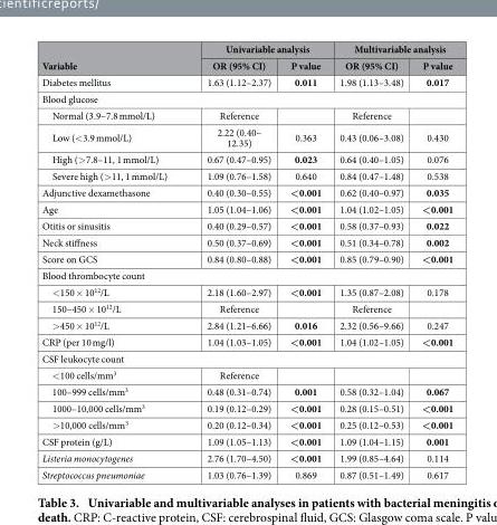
<table><thead><tr><td rowspan="2">Variable</td><td colspan="2">Univariable analysis</td><td colspan="2">Multivariable analysis</td></tr><tr><td>OR (95% CI)</td><td>P value</td><td>OR (95% CI)</td><td>P value</td></tr></thead><tbody><tr><td>Diabetes mellitus</td><td>1.63 (1.12–2.37)</td><td>0.011</td><td>1.98 (1.13–3.48)</td><td>0.017</td></tr><tr><td colspan="5">Blood glucose</td></tr><tr><td>Normal (3.9–7.8 mmol/L)</td><td>Reference</td><td></td><td>Reference</td><td></td></tr><tr><td>Low (&lt; 3.9 mmol/L)</td><td>2.22 (0.40– 12.35)</td><td>0.363</td><td>0.43 (0.06–3.08)</td><td>0.430</td></tr><tr><td>High (&gt; 7.8–11, 1 mmol/L)</td><td>0.67 (0.47–0.95)</td><td>0.023</td><td>0.64 (0.40–1.05)</td><td>0.076</td></tr><tr><td>Severe high (&gt; 11, 1 mmol/L)</td><td>1.09 (0.76–1.58)</td><td>0.640</td><td>0.84 (0.47–1.48)</td><td>0.538</td></tr><tr><td>Adjunctive dexamethasone</td><td>0.40 (0.30–0.55)</td><td>&lt;0.001</td><td>0.62 (0.40–0.97)</td><td>0.035</td></tr><tr><td>Age</td><td>1.05 (1.04–1.06)</td><td>&lt;0.001</td><td>1.04 (1.02–1.05)</td><td>&lt;0.001</td></tr><tr><td>Otitis or sinusitis</td><td>0.40 (0.29–0.57)</td><td>&lt;0.001</td><td>0.58 (0.37–0.93)</td><td>0.022</td></tr><tr><td>Neck stiffness</td><td>0.50 (0.37–0.69)</td><td>&lt;0.001</td><td>0.51 (0.34–0.78)</td><td>0.002</td></tr><tr><td>Score on GCS</td><td>0.84 (0.80–0.88)</td><td>&lt;0.001</td><td>0.85 (0.79–0.90)</td><td>&lt;0.001</td></tr><tr><td colspan="5">Blood thrombocyte count</td></tr><tr><td>&lt; 150 × 10<sup>12</sup>/L</td><td>2.18 (1.60–2.97)</td><td>&lt;0.001</td><td>1.35 (0.87–2.08)</td><td>0.178</td></tr><tr><td>150–450 × 10<sup>12</sup>/L</td><td>Reference</td><td></td><td>Reference</td><td></td></tr><tr><td>&gt; 450 × 10<sup>12</sup>/L</td><td>2.84 (1.21–6.66)</td><td>0.016</td><td>2.32 (0.56–9.66)</td><td>0.247</td></tr><tr><td>CRP (per 10 mg/l)</td><td>1.04 (1.03–1.05)</td><td>&lt;0.001</td><td>1.04 (1.02–1.05)</td><td>&lt;0.001</td></tr><tr><td colspan="5">CSF leukocyte count</td></tr><tr><td>&lt; 100 cells/mm<sup>3</sup></td><td>Reference</td><td></td><td></td><td></td></tr><tr><td>100–999 cells/mm<sup>3</sup></td><td>0.48 (0.31–0.74)</td><td>0.001</td><td>0.58 (0.32–1.04)</td><td>0.067</td></tr><tr><td>1000–10,000 cells/mm<sup>3</sup></td><td>0.19 (0.12–0.29)</td><td>&lt;0.001</td><td>0.28 (0.15–0.51)</td><td>&lt;0.001</td></tr><tr><td>&gt; 10,000 cells/mm<sup>3</sup></td><td>0.20 (0.12–0.34)</td><td>&lt;0.001</td><td>0.25 (0.12–0.53)</td><td>&lt;0.001</td></tr><tr><td>CSF protein (g/L)</td><td>1.09 (1.05–1.13)</td><td>&lt;0.001</td><td>1.09 (1.04–1.15)</td><td>0.001</td></tr><tr><td>Listeria monocytogenes</td><td>2.76 (1.70–4.50)</td><td>&lt;0.001</td><td>1.99 (0.85–4.64)</td><td>0.114</td></tr><tr><td>Streptococcus pneumoniae</td><td>1.03 (0.76–1.39)</td><td>0.869</td><td>0.87 (0.51–1.49)</td><td>0.617</td></tr></tbody></table>